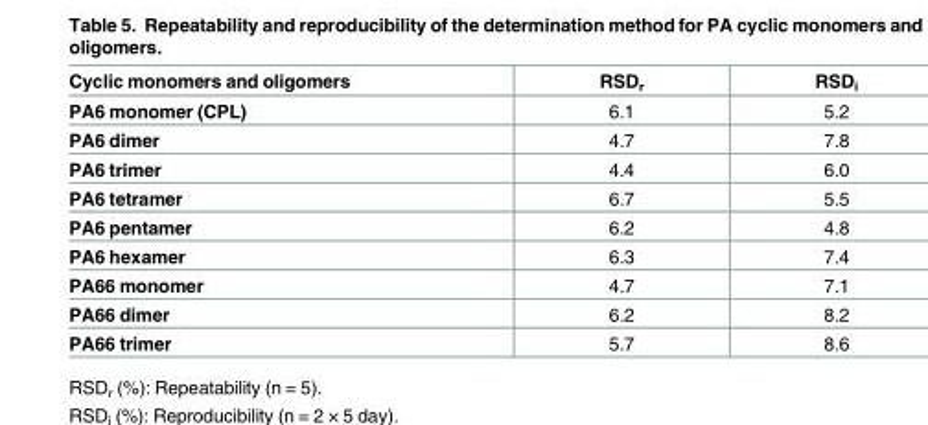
<table><thead><tr><td>Cyclic monomers and oligomers</td><td>RSD<sub>r</sub></td><td>RSD<sub>i</sub></td></tr></thead><tbody><tr><td>PA6 monomer (CPL)</td><td>6.1</td><td>5.2</td></tr><tr><td>PA6 dimer</td><td>4.7</td><td>7.8</td></tr><tr><td>PA6 trimer</td><td>4.4</td><td>6.0</td></tr><tr><td>PA6 tetramer</td><td>6.7</td><td>5.5</td></tr><tr><td>PA6 pentamer</td><td>6.2</td><td>4.8</td></tr><tr><td>PA6 hexamer</td><td>6.3</td><td>7.4</td></tr><tr><td>PA66 monomer</td><td>4.7</td><td>7.1</td></tr><tr><td>PA66 dimer</td><td>6.2</td><td>8.2</td></tr><tr><td>PA66 trimer</td><td>5.7</td><td>8.6</td></tr></tbody></table>